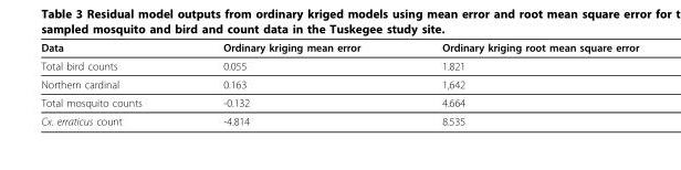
<table><thead><tr><td>Data</td><td>Ordinary kriging mean error</td><td>Ordinary kriging root mean square error</td></tr></thead><tbody><tr><td>Total bird counts</td><td>0.055</td><td>1.821</td></tr><tr><td>Northern cardinal</td><td>0.163</td><td>1,642</td></tr><tr><td>Total mosquito counts</td><td>-0.132</td><td>4.664</td></tr><tr><td>Cx. erraticus count</td><td>-4.814</td><td>8.535</td></tr></tbody></table>